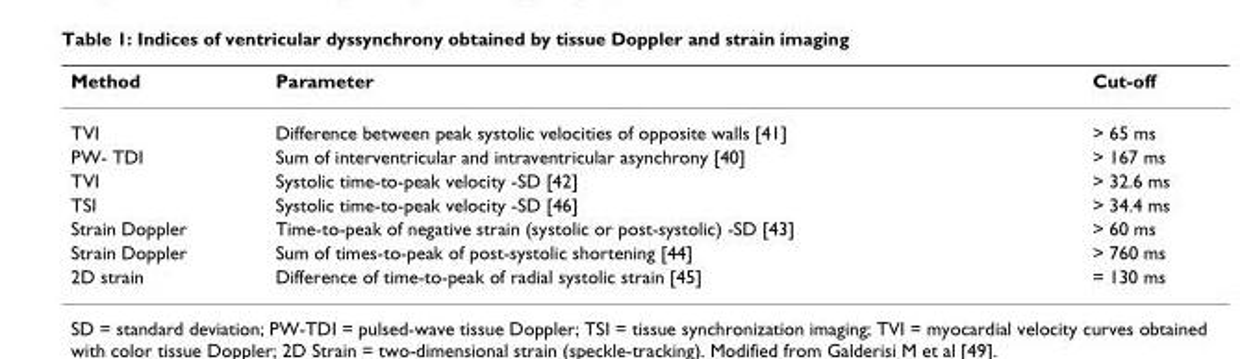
<table><thead><tr><td>Method</td><td>Parameter</td><td>Cut-off</td></tr></thead><tbody><tr><td>TVI</td><td>Difference between peak systolic velocities of opposite walls [41]</td><td>&gt; 65 ms</td></tr><tr><td>PW- TDI</td><td>Sum of interventricular and intraventricular asynchrony [40]</td><td>&gt; 167 ms</td></tr><tr><td>TVI</td><td>Systolic time-to-peak velocity -SD [42]</td><td>&gt; 32.6 ms</td></tr><tr><td>TSI</td><td>Systolic time-to-peak velocity -SD [46]</td><td>&gt; 34.4 ms</td></tr><tr><td>Strain Doppler</td><td>Time-to-peak of negative strain (systolic or post-systolic) -SD [43]</td><td>&gt; 60 ms</td></tr><tr><td>Strain Doppler</td><td>Sum of times-to-peak of post-systolic shortening [44]</td><td>&gt; 760 ms</td></tr><tr><td>2D strain</td><td>Difference of time-to-peak of radial systolic strain [45]</td><td>= 130 ms</td></tr></tbody></table>